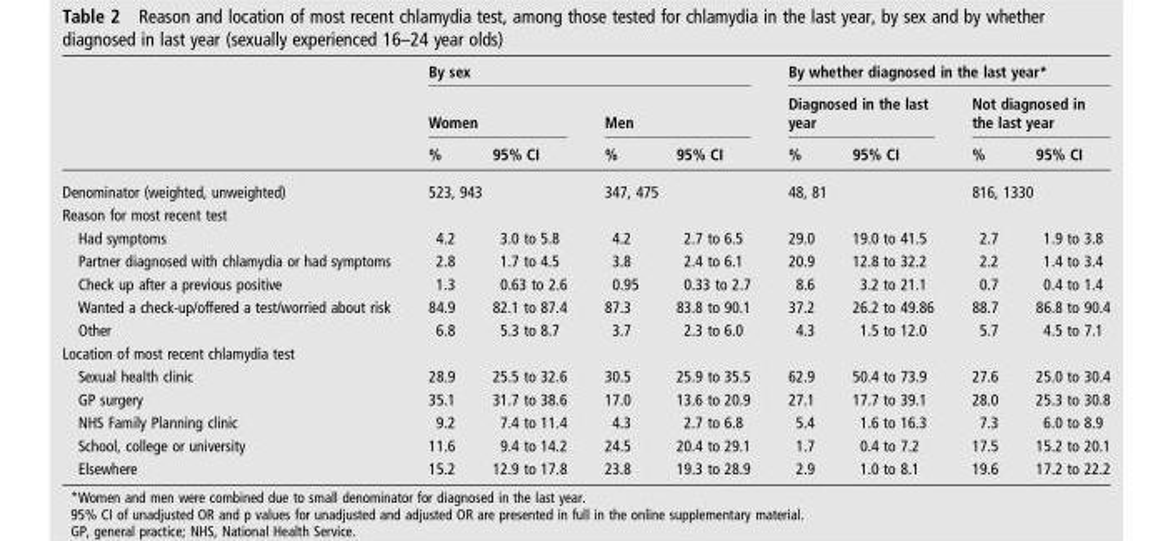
<table><thead><tr><td rowspan="3"></td><td colspan="4">By sex</td><td colspan="4">By whether diagnosed in the last year*</td></tr><tr><td colspan="2">Women</td><td colspan="2">Men</td><td colspan="2">Diagnosed in the last year</td><td colspan="2">Not diagnosed in the last year</td></tr><tr><td>%</td><td>95% CI</td><td>%</td><td>95% CI</td><td>%</td><td>95% CI</td><td>%</td><td>95% CI</td></tr></thead><tbody><tr><td>Denominator (weighted, unweighted)</td><td colspan="2">523, 943</td><td colspan="2">347, 475</td><td colspan="2">48, 81</td><td colspan="2">816, 1330</td></tr><tr><td colspan="9">Reason for most recent test</td></tr><tr><td>Had symptoms</td><td>4.2</td><td>3.0 to 5.8</td><td>4.2</td><td>2.7 to 6.5</td><td>29.0</td><td>19.0 to 41.5</td><td>2.7</td><td>1.9 to 3.8</td></tr><tr><td>Partner diagnosed with chlamydia or had symptoms</td><td>2.8</td><td>1.7 to 4.5</td><td>3.8</td><td>2.4 to 6.1</td><td>20.9</td><td>12.8 to 32.2</td><td>2.2</td><td>1.4 to 3.4</td></tr><tr><td>Check up after a previous positive</td><td>1.3</td><td>0.63 to 2.6</td><td>0.95</td><td>0.33 to 2.7</td><td>8.6</td><td>3.2 to 21.1</td><td>0.7</td><td>0.4 to 1.4</td></tr><tr><td>Wanted a check-up/offered a test/worried about risk</td><td>84.9</td><td>82.1 to 87.4</td><td>87.3</td><td>83.8 to 90.1</td><td>37.2</td><td>26.2 to 49.86</td><td>88.7</td><td>86.8 to 90.4</td></tr><tr><td>Other</td><td>6.8</td><td>5.3 to 8.7</td><td>3.7</td><td>2.3 to 6.0</td><td>4.3</td><td>1.5 to 12.0</td><td>5.7</td><td>4.5 to 7.1</td></tr><tr><td colspan="9">Location of most recent chlamydia test</td></tr><tr><td>Sexual health clinic</td><td>28.9</td><td>25.5 to 32.6</td><td>30.5</td><td>25.9 to 35.5</td><td>62.9</td><td>50.4 to 73.9</td><td>27.6</td><td>25.0 to 30.4</td></tr><tr><td>GP surgery</td><td>35.1</td><td>31.7 to 38.6</td><td>17.0</td><td>13.6 to 20.9</td><td>27.1</td><td>17.7 to 39.1</td><td>28.0</td><td>25.3 to 30.8</td></tr><tr><td>NHS Family Planning clinic</td><td>9.2</td><td>7.4 to 11.4</td><td>4.3</td><td>2.7 to 6.8</td><td>5.4</td><td>1.6 to 16.3</td><td>7.3</td><td>6.0 to 8.9</td></tr><tr><td>School, college or university</td><td>11.6</td><td>9.4 to 14.2</td><td>24.5</td><td>20.4 to 29.1</td><td>1.7</td><td>0.4 to 7.2</td><td>17.5</td><td>15.2 to 20.1</td></tr><tr><td>Elsewhere</td><td>15.2</td><td>12.9 to 17.8</td><td>23.8</td><td>19.3 to 28.9</td><td>2.9</td><td>1.0 to 8.1</td><td>19.6</td><td>17.2 to 22.2</td></tr></tbody></table>